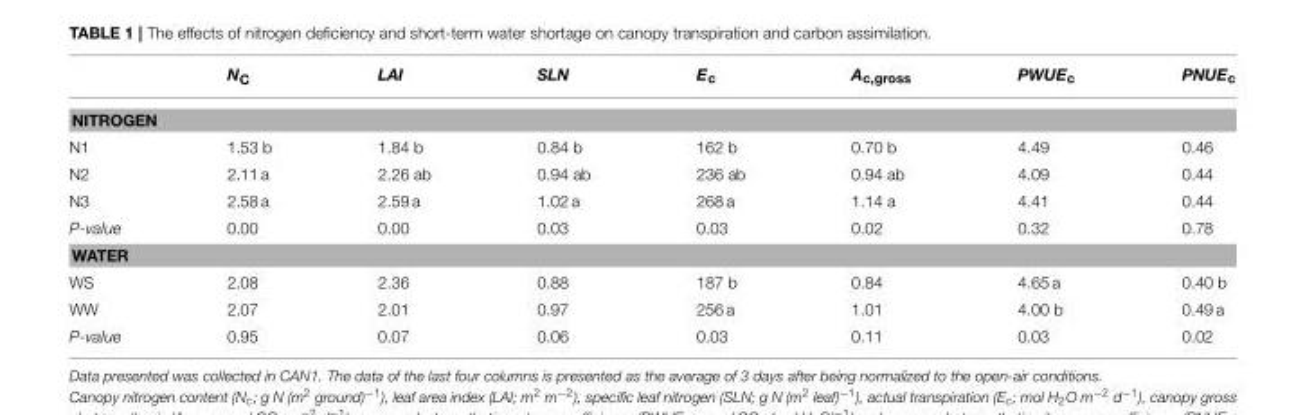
<table><thead><tr><td></td><td>N<sub>C</sub></td><td>LAI</td><td>SLN</td><td>E<sub>c</sub></td><td>A<sub>c,gross</sub></td><td>PWUE<sub>c</sub></td><td>PNUE<sub>c</sub></td></tr></thead><tbody><tr><td colspan="8">NITROGEN</td></tr><tr><td>N1</td><td>1.53 b</td><td>1.84 b</td><td>0.84 b</td><td>162 b</td><td>0.70 b</td><td>4.49</td><td>0.46</td></tr><tr><td>N2</td><td>2.11 a</td><td>2.26 ab</td><td>0.94 ab</td><td>236 ab</td><td>0.94 ab</td><td>4.09</td><td>0.44</td></tr><tr><td>N3</td><td>2.58 a</td><td>2.59 a</td><td>1.02 a</td><td>268 a</td><td>1.14 a</td><td>4.41</td><td>0.44</td></tr><tr><td>P-value</td><td>0.00</td><td>0.00</td><td>0.03</td><td>0.03</td><td>0.02</td><td>0.32</td><td>0.78</td></tr><tr><td colspan="8">WATER</td></tr><tr><td>WS</td><td>2.08</td><td>2.36</td><td>0.88</td><td>187 b</td><td>0.84</td><td>4.65 a</td><td>0.40 b</td></tr><tr><td>WW</td><td>2.07</td><td>2.01</td><td>0.97</td><td>256 a</td><td>1.01</td><td>4.00 b</td><td>0.49 a</td></tr><tr><td>P-value</td><td>0.95</td><td>0.07</td><td>0.06</td><td>0.03</td><td>0.11</td><td>0.03</td><td>0.02</td></tr></tbody></table>